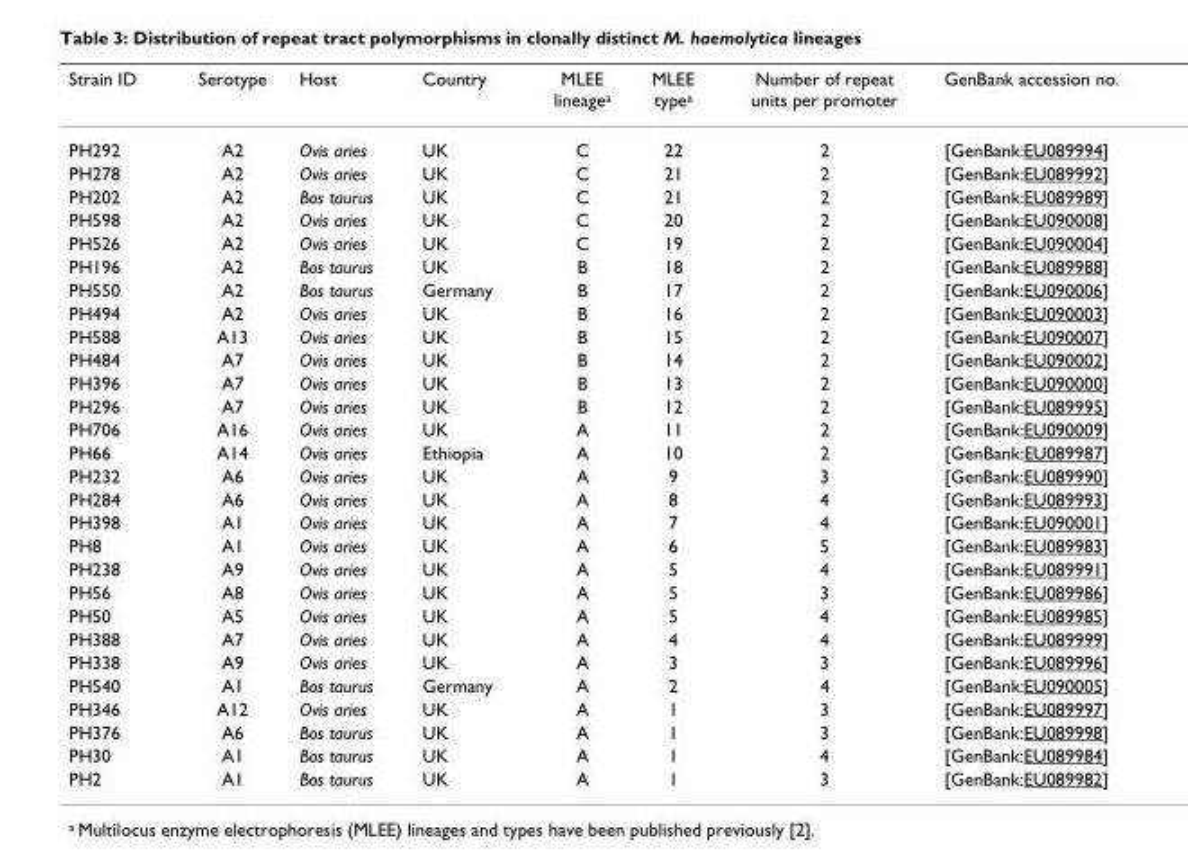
<table><thead><tr><td>Strain ID</td><td>Serotype</td><td>Host</td><td>Country</td><td>MLEE lineage<sup>a</sup></td><td>MLEE type<sup>a</sup></td><td>Number of repeat units per promoter</td><td>GenBank accession no.</td></tr></thead><tbody><tr><td>PH292</td><td>A2</td><td>Ovis aries</td><td>UK</td><td>C</td><td>22</td><td>2</td><td>[GenBank:EU089994]</td></tr><tr><td>PH278</td><td>A2</td><td>Ovis aries</td><td>UK</td><td>C</td><td>21</td><td>2</td><td>[GenBank:EU089992]</td></tr><tr><td>PH202</td><td>A2</td><td>Bos taurus</td><td>UK</td><td>C</td><td>21</td><td>2</td><td>[GenBank:EU089989]</td></tr><tr><td>PH598</td><td>A2</td><td>Ovis aries</td><td>UK</td><td>C</td><td>20</td><td>2</td><td>[GenBank:EU090008]</td></tr><tr><td>PH526</td><td>A2</td><td>Ovis aries</td><td>UK</td><td>C</td><td>19</td><td>2</td><td>[GenBank:EU090004]</td></tr><tr><td>PH196</td><td>A2</td><td>Bos taurus</td><td>UK</td><td>B</td><td>18</td><td>2</td><td>[GenBank:EU089988]</td></tr><tr><td>PH550</td><td>A2</td><td>Bos taurus</td><td>Germany</td><td>B</td><td>17</td><td>2</td><td>[GenBank:EU090006]</td></tr><tr><td>PH494</td><td>A2</td><td>Ovis aries</td><td>UK</td><td>B</td><td>16</td><td>2</td><td>[GenBank:EU090003]</td></tr><tr><td>PH588</td><td>A13</td><td>Ovis aries</td><td>UK</td><td>B</td><td>15</td><td>2</td><td>[GenBank:EU090007]</td></tr><tr><td>PH484</td><td>A7</td><td>Ovis aries</td><td>UK</td><td>B</td><td>14</td><td>2</td><td>[GenBank:EU090002]</td></tr><tr><td>PH396</td><td>A7</td><td>Ovis aries</td><td>UK</td><td>B</td><td>13</td><td>2</td><td>[GenBank:EU090000]</td></tr><tr><td>PH296</td><td>A7</td><td>Ovis aries</td><td>UK</td><td>B</td><td>12</td><td>2</td><td>[GenBank:EU089995]</td></tr><tr><td>PH706</td><td>A16</td><td>Ovis aries</td><td>UK</td><td>A</td><td>11</td><td>2</td><td>[GenBank:EU090009]</td></tr><tr><td>PH66</td><td>A14</td><td>Ovis aries</td><td>Ethiopia</td><td>A</td><td>10</td><td>2</td><td>[GenBank:EU089987]</td></tr><tr><td>PH232</td><td>A6</td><td>Ovis aries</td><td>UK</td><td>A</td><td>9</td><td>3</td><td>[GenBank:EU089990]</td></tr><tr><td>PH284</td><td>A6</td><td>Ovis aries</td><td>UK</td><td>A</td><td>8</td><td>4</td><td>[GenBank:EU089993]</td></tr><tr><td>PH398</td><td>A1</td><td>Ovis aries</td><td>UK</td><td>A</td><td>7</td><td>4</td><td>[GenBank:EU090001]</td></tr><tr><td>PH8</td><td>A1</td><td>Ovis aries</td><td>UK</td><td>A</td><td>6</td><td>5</td><td>[GenBank:EU089983]</td></tr><tr><td>PH238</td><td>A9</td><td>Ovis aries</td><td>UK</td><td>A</td><td>5</td><td>4</td><td>[GenBank:EU089991]</td></tr><tr><td>PH56</td><td>A8</td><td>Ovis aries</td><td>UK</td><td>A</td><td>5</td><td>3</td><td>[GenBank:EU089986]</td></tr><tr><td>PH50</td><td>A5</td><td>Ovis aries</td><td>UK</td><td>A</td><td>5</td><td>4</td><td>[GenBank:EU089985]</td></tr><tr><td>PH388</td><td>A7</td><td>Ovis aries</td><td>UK</td><td>A</td><td>4</td><td>4</td><td>[GenBank:EU089999]</td></tr><tr><td>PH338</td><td>A9</td><td>Ovis aries</td><td>UK</td><td>A</td><td>3</td><td>3</td><td>[GenBank:EU089996]</td></tr><tr><td>PH540</td><td>A1</td><td>Bos taurus</td><td>Germany</td><td>A</td><td>2</td><td>4</td><td>[GenBank:EU090005]</td></tr><tr><td>PH346</td><td>A12</td><td>Ovis aries</td><td>UK</td><td>A</td><td>1</td><td>3</td><td>[GenBank:EU089997]</td></tr><tr><td>PH376</td><td>A6</td><td>Bos taurus</td><td>UK</td><td>A</td><td>1</td><td>3</td><td>[GenBank:EU089998]</td></tr><tr><td>PH30</td><td>A1</td><td>Bos taurus</td><td>UK</td><td>A</td><td>1</td><td>4</td><td>[GenBank:EU089984]</td></tr><tr><td>PH2</td><td>A1</td><td>Bos taurus</td><td>UK</td><td>A</td><td>1</td><td>3</td><td>[GenBank:EU089982]</td></tr></tbody></table>